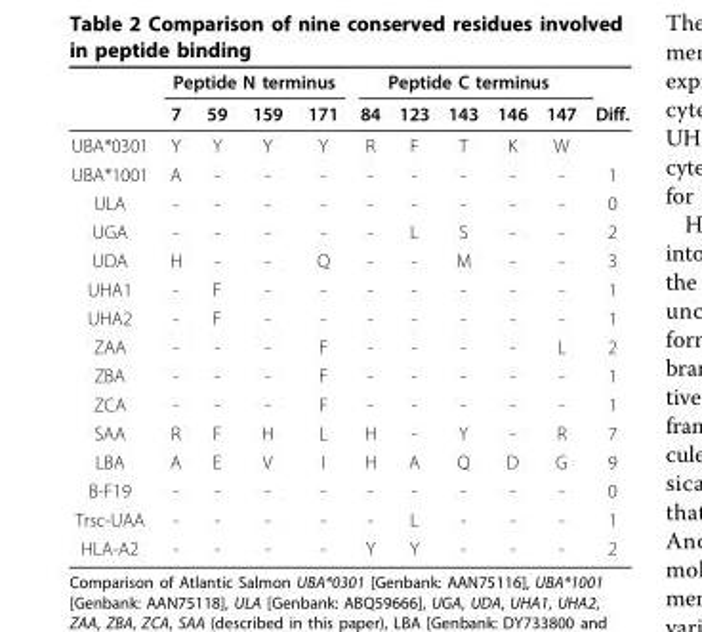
<table><thead><tr><td rowspan="2"></td><td colspan="4">Peptide N terminus</td><td colspan="5">Peptide C terminus</td><td rowspan="2">Diff.</td></tr><tr><td>7</td><td>59</td><td>159</td><td>171</td><td>84</td><td>123</td><td>143</td><td>146</td><td>147</td></tr></thead><tbody><tr><td>UBA*0301</td><td>Y</td><td>Y</td><td>Y</td><td>Y</td><td>R</td><td>F</td><td>T</td><td>K</td><td>W</td><td></td></tr><tr><td>UBA*1001</td><td>A</td><td>-</td><td>-</td><td>-</td><td>-</td><td>-</td><td>-</td><td>-</td><td>-</td><td>1</td></tr><tr><td>ULA</td><td>-</td><td>-</td><td>-</td><td>-</td><td>-</td><td>-</td><td>-</td><td>-</td><td>-</td><td>0</td></tr><tr><td>UGA</td><td>-</td><td>-</td><td>-</td><td>-</td><td>-</td><td>L</td><td>S</td><td>-</td><td>-</td><td>2</td></tr><tr><td>UDA</td><td>H</td><td>-</td><td>-</td><td>Q</td><td>-</td><td>-</td><td>M</td><td>-</td><td>-</td><td>3</td></tr><tr><td>UHA1</td><td>-</td><td>F</td><td>-</td><td>-</td><td>-</td><td>-</td><td>-</td><td>-</td><td>-</td><td>1</td></tr><tr><td>UHA2</td><td>-</td><td>F</td><td>-</td><td>-</td><td>-</td><td>-</td><td>-</td><td>-</td><td>-</td><td>1</td></tr><tr><td>ZAA</td><td>-</td><td>-</td><td>-</td><td>F</td><td>-</td><td>-</td><td>-</td><td>-</td><td>L</td><td>2</td></tr><tr><td>ZBA</td><td>-</td><td>-</td><td>-</td><td>F</td><td>-</td><td>-</td><td>-</td><td>-</td><td>-</td><td>1</td></tr><tr><td>ZCA</td><td>-</td><td>-</td><td>-</td><td>F</td><td>-</td><td>-</td><td>-</td><td>-</td><td>-</td><td>1</td></tr><tr><td>SAA</td><td>R</td><td>F</td><td>H</td><td>L</td><td>H</td><td>-</td><td>Y</td><td>-</td><td>R</td><td>7</td></tr><tr><td>LBA</td><td>A</td><td>E</td><td>V</td><td>I</td><td>H</td><td>A</td><td>Q</td><td>D</td><td>G</td><td>9</td></tr><tr><td>B-F19</td><td>-</td><td>-</td><td>-</td><td>-</td><td>-</td><td>-</td><td>-</td><td>-</td><td>-</td><td>0</td></tr><tr><td>Trsc-UAA</td><td>-</td><td>-</td><td>-</td><td>-</td><td>-</td><td>L</td><td>-</td><td>-</td><td>-</td><td>1</td></tr><tr><td>HLA-A2</td><td>-</td><td>-</td><td>-</td><td>-</td><td>Y</td><td>Y</td><td>-</td><td>-</td><td>-</td><td>2</td></tr></tbody></table>